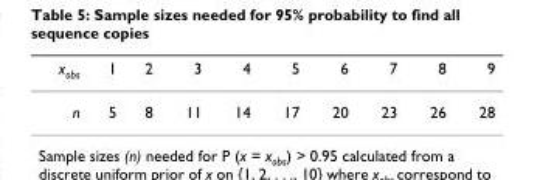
<table><thead><tr><td>x<sub>obs</sub></td><td>1</td><td>2</td><td>3</td><td>4</td><td>5</td><td>6</td><td>7</td><td>8</td><td>9</td></tr></thead><tbody><tr><td>n</td><td>5</td><td>8</td><td>11</td><td>14</td><td>17</td><td>20</td><td>23</td><td>26</td><td>28</td></tr></tbody></table>